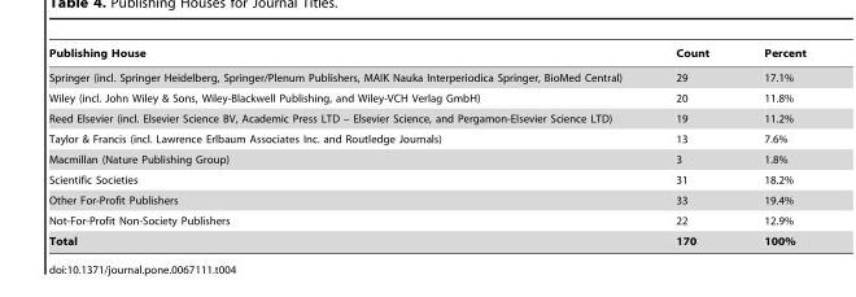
<table><thead><tr><td>Publishing House</td><td>Count</td><td>Percent</td></tr></thead><tbody><tr><td>Springer (incl. Springer Heidelberg, Springer/Plenum Publishers, MAIK Nauka Interperiodica Springer, BioMed Central)</td><td>29</td><td>17.1%</td></tr><tr><td>Wiley (incl. John Wiley &amp; Sons, Wiley-Blackwell Publishing, and Wiley-VCH Verlag GmbH)</td><td>20</td><td>11.8%</td></tr><tr><td>Reed Elsevier (incl. Elsevier Science BV, Academic Press LTD – Elsevier Science, and Pergamon-Elsevier Science LTD)</td><td>19</td><td>11.2%</td></tr><tr><td>Taylor &amp; Francis (incl. Lawrence Erlbaum Associates Inc. and Routledge Journals)</td><td>13</td><td>7.6%</td></tr><tr><td>Macmillan (Nature Publishing Group)</td><td>3</td><td>1.8%</td></tr><tr><td>Scientific Societies</td><td>31</td><td>18.2%</td></tr><tr><td>Other For-Profit Publishers</td><td>33</td><td>19.4%</td></tr><tr><td>Not-For-Profit Non-Society Publishers</td><td>22</td><td>12.9%</td></tr><tr><td>Total</td><td>170</td><td>100%</td></tr></tbody></table>